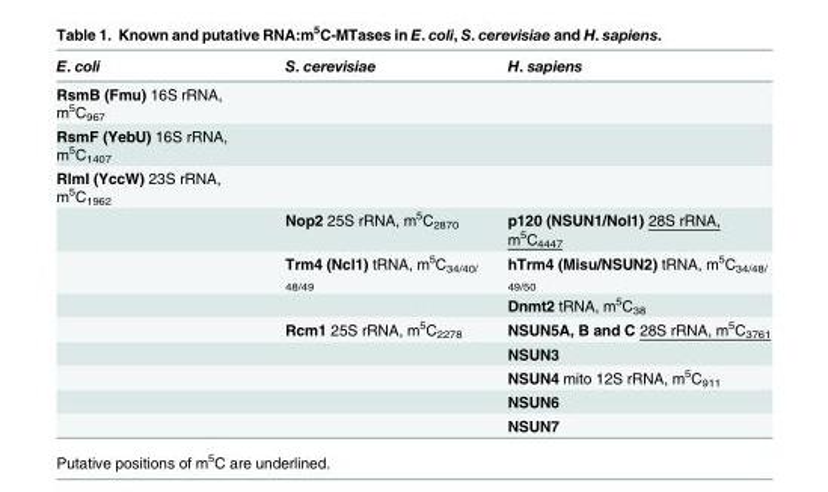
<table><thead><tr><td>E. coli</td><td>S. cerevisiae</td><td>H. sapiens</td></tr></thead><tbody><tr><td colspan="3">RsmB (Fmu) 16S rRNA, m<sup>5</sup>C<sub>967</sub></td></tr><tr><td colspan="3">RsmF (YebU) 16S rRNA, m<sup>5</sup>C<sub>1407</sub></td></tr><tr><td colspan="3">RlmI (YccW) 23S rRNA, m<sup>5</sup>C<sub>1962</sub></td></tr><tr><td></td><td>Nop2 25S rRNA, m<sup>5</sup>C<sub>2870</sub></td><td>p120 (NSUN1/Nol1) 28S rRNA, m<sup>5</sup>C<sub>4447</sub></td></tr><tr><td></td><td>Trm4 (Ncl1) tRNA, m<sup>5</sup>C<sub>34/40/ 48/49</sub></td><td>hTrm4 (Misu/NSUN2) tRNA, m<sup>5</sup>C<sub>34/48/ 49/50</sub></td></tr><tr><td></td><td></td><td>Dnmt2 tRNA, m<sup>5</sup>C<sub>38</sub></td></tr><tr><td></td><td>Rcm1 25S rRNA, m<sup>5</sup>C<sub>2278</sub></td><td>NSUN5A, B and C 28S rRNA, m<sup>5</sup>C<sub>3761</sub></td></tr><tr><td></td><td></td><td>NSUN3</td></tr><tr><td></td><td></td><td>NSUN4 mito 12S rRNA, m<sup>5</sup>C<sub>911</sub></td></tr><tr><td></td><td></td><td>NSUN6</td></tr><tr><td></td><td></td><td>NSUN7</td></tr></tbody></table>